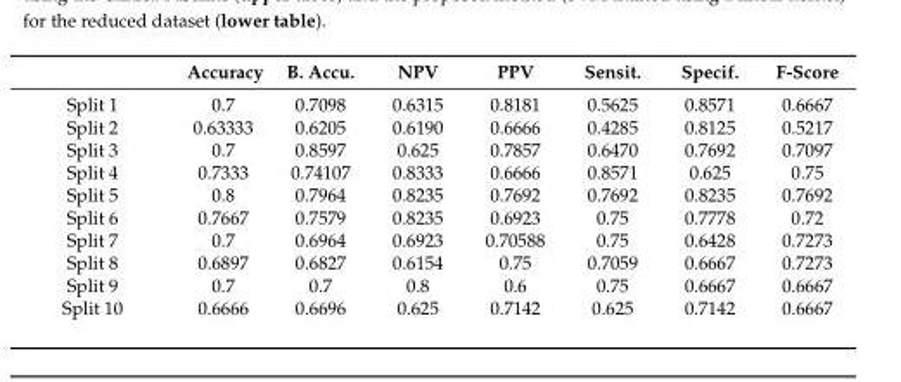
<table><thead><tr><td></td><td>Accuracy</td><td>B. Accu.</td><td>NPV</td><td>PPV</td><td>Sensit.</td><td>Specif.</td><td>F-Score</td></tr></thead><tbody><tr><td>Split 1</td><td>0.7</td><td>0.7098</td><td>0.6315</td><td>0.8181</td><td>0.5625</td><td>0.8571</td><td>0.6667</td></tr><tr><td>Split 2</td><td>0.63333</td><td>0.6205</td><td>0.6190</td><td>0.6666</td><td>0.4285</td><td>0.8125</td><td>0.5217</td></tr><tr><td>Split 3</td><td>0.7</td><td>0.8597</td><td>0.625</td><td>0.7857</td><td>0.6470</td><td>0.7692</td><td>0.7097</td></tr><tr><td>Split 4</td><td>0.7333</td><td>0.74107</td><td>0.8333</td><td>0.6666</td><td>0.8571</td><td>0.625</td><td>0.75</td></tr><tr><td>Split 5</td><td>0.8</td><td>0.7964</td><td>0.8235</td><td>0.7692</td><td>0.7692</td><td>0.8235</td><td>0.7692</td></tr><tr><td>Split 6</td><td>0.7667</td><td>0.7579</td><td>0.8235</td><td>0.6923</td><td>0.75</td><td>0.7778</td><td>0.72</td></tr><tr><td>Split 7</td><td>0.7</td><td>0.6964</td><td>0.6923</td><td>0.70588</td><td>0.75</td><td>0.6428</td><td>0.7273</td></tr><tr><td>Split 8</td><td>0.6897</td><td>0.6827</td><td>0.6154</td><td>0.75</td><td>0.7059</td><td>0.6667</td><td>0.7273</td></tr><tr><td>Split 9</td><td>0.7</td><td>0.7</td><td>0.8</td><td>0.6</td><td>0.75</td><td>0.6667</td><td>0.6667</td></tr><tr><td>Split 10</td><td>0.6666</td><td>0.6696</td><td>0.625</td><td>0.7142</td><td>0.625</td><td>0.7142</td><td>0.6667</td></tr></tbody></table>